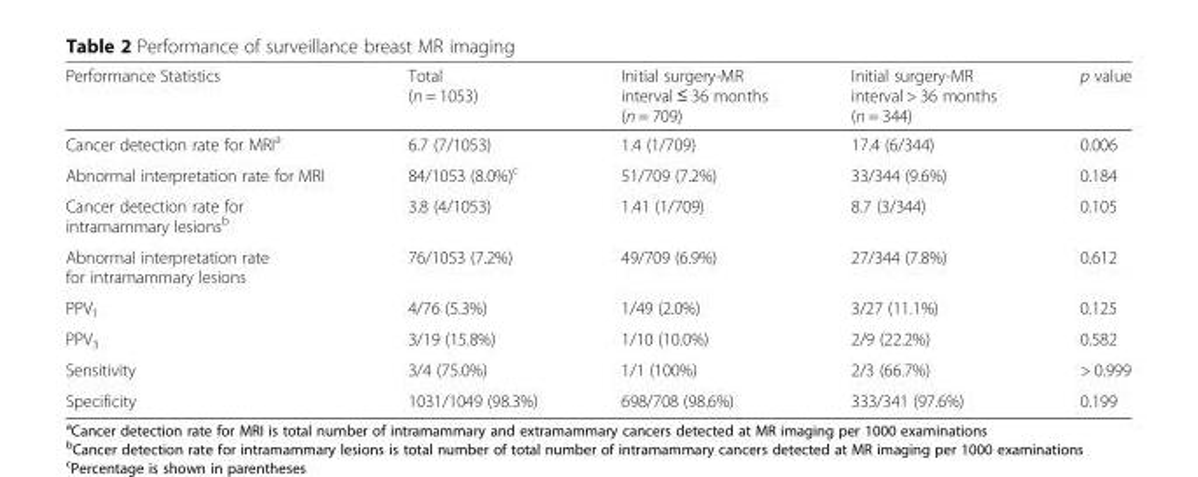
<table><thead><tr><td>Performance Statistics</td><td>Total (n = 1053)</td><td>Initial surgery-MR interval ≤ 36 months (n = 709)</td><td>Initial surgery-MR interval &gt; 36 months (n = 344)</td><td>p value</td></tr></thead><tbody><tr><td>Cancer detection rate for MRI<sup>a</sup></td><td>6.7 (7/1053)</td><td>1.4 (1/709)</td><td>17.4 (6/344)</td><td>0.006</td></tr><tr><td>Abnormal interpretation rate for MRI</td><td>84/1053 (8.0%)<sup>c</sup></td><td>51/709 (7.2%)</td><td>33/344 (9.6%)</td><td>0.184</td></tr><tr><td>Cancer detection rate for intramammary lesions<sup>b</sup></td><td>3.8 (4/1053)</td><td>1.41 (1/709)</td><td>8.7 (3/344)</td><td>0.105</td></tr><tr><td>Abnormal interpretation rate for intramammary lesions</td><td>76/1053 (7.2%)</td><td>49/709 (6.9%)</td><td>27/344 (7.8%)</td><td>0.612</td></tr><tr><td>PPV<sub>1</sub></td><td>4/76 (5.3%)</td><td>1/49 (2.0%)</td><td>3/27 (11.1%)</td><td>0.125</td></tr><tr><td>PPV<sub>3</sub></td><td>3/19 (15.8%)</td><td>1/10 (10.0%)</td><td>2/9 (22.2%)</td><td>0.582</td></tr><tr><td>Sensitivity</td><td>3/4 (75.0%)</td><td>1/1 (100%)</td><td>2/3 (66.7%)</td><td>&gt; 0.999</td></tr><tr><td>Specificity</td><td>1031/1049 (98.3%)</td><td>698/708 (98.6%)</td><td>333/341 (97.6%)</td><td>0.199</td></tr></tbody></table>